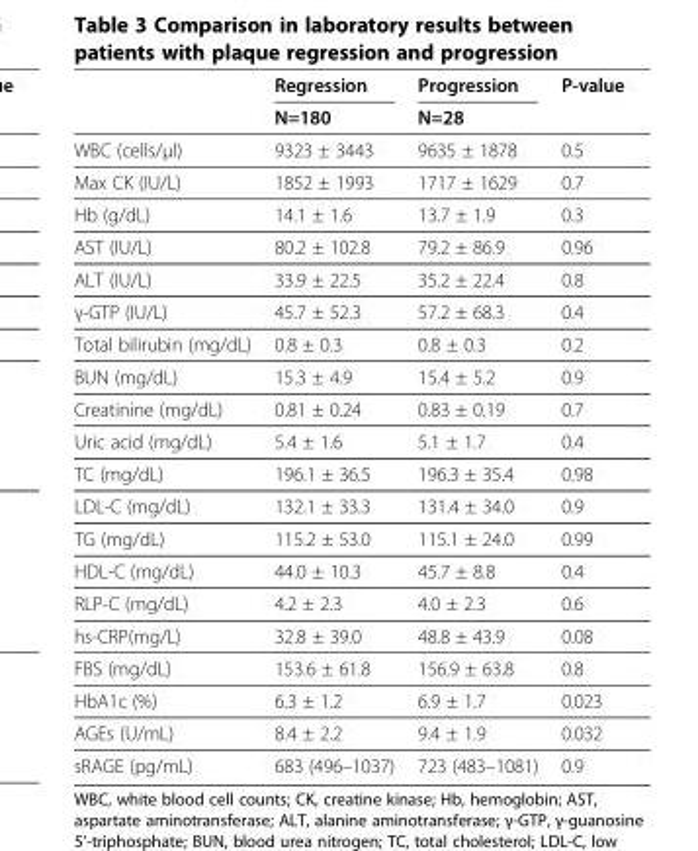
<table><thead><tr><td rowspan="2"></td><td rowspan="2">Regression N=180</td><td rowspan="2">Progression N=28</td><td rowspan="2">P-value</td></tr><tr></tr></thead><tbody><tr><td>WBC (cells/μl)</td><td>9323 ± 3443</td><td>9635 ± 1878</td><td>0.5</td></tr><tr><td>Max CK (IU/L)</td><td>1852 ± 1993</td><td>1717 ± 1629</td><td>0.7</td></tr><tr><td>Hb (g/dL)</td><td>14.1 ± 1.6</td><td>13.7 ± 1.9</td><td>0.3</td></tr><tr><td>AST (IU/L)</td><td>80.2 ± 102.8</td><td>79.2 ± 86.9</td><td>0.96</td></tr><tr><td>ALT (IU/L)</td><td>33.9 ± 22.5</td><td>35.2 ± 22.4</td><td>0.8</td></tr><tr><td>γ-GTP (IU/L)</td><td>45.7 ± 52.3</td><td>57.2 ± 68.3</td><td>0.4</td></tr><tr><td>Total bilirubin (mg/dL)</td><td>0.8 ± 0.3</td><td>0.8 ± 0.3</td><td>0.2</td></tr><tr><td>BUN (mg/dL)</td><td>15.3 ± 4.9</td><td>15.4 ± 5.2</td><td>0.9</td></tr><tr><td>Creatinine (mg/dL)</td><td>0.81 ± 0.24</td><td>0.83 ± 0.19</td><td>0.7</td></tr><tr><td>Uric acid (mg/dL)</td><td>5.4 ± 1.6</td><td>5.1 ± 1.7</td><td>0.4</td></tr><tr><td>TC (mg/dL)</td><td>196.1 ± 36.5</td><td>196.3 ± 35.4</td><td>0.98</td></tr><tr><td>LDL-C (mg/dL)</td><td>132.1 ± 33.3</td><td>131.4 ± 34.0</td><td>0.9</td></tr><tr><td>TG (mg/dL)</td><td>115.2 ± 53.0</td><td>115.1 ± 24.0</td><td>0.99</td></tr><tr><td>HDL-C (mg/dL)</td><td>44.0 ± 10.3</td><td>45.7 ± 8.8</td><td>0.4</td></tr><tr><td>RLP-C (mg/dL)</td><td>4.2 ± 2.3</td><td>4.0 ± 2.3</td><td>0.6</td></tr><tr><td>hs-CRP(mg/L)</td><td>32.8 ± 39.0</td><td>48.8 ± 43.9</td><td>0.08</td></tr><tr><td>FBS (mg/dL)</td><td>153.6 ± 61.8</td><td>156.9 ± 63.8</td><td>0.8</td></tr><tr><td>HbA1c (%)</td><td>6.3 ± 1.2</td><td>6.9 ± 1.7</td><td>0.023</td></tr><tr><td>AGEs (U/mL)</td><td>8.4 ± 2.2</td><td>9.4 ± 1.9</td><td>0.032</td></tr><tr><td>sRAGE (pg/mL)</td><td>683 (496–1037)</td><td>723 (483–1081)</td><td>0.9</td></tr></tbody></table>